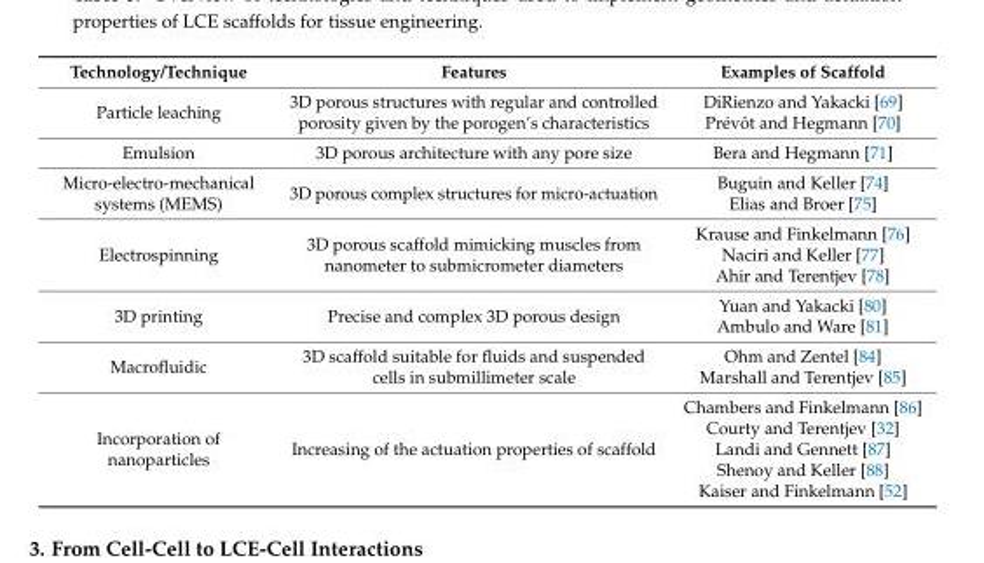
<table><thead><tr><td>Technology/Technique</td><td>Features</td><td>Examples of Scaffold</td></tr></thead><tbody><tr><td>Particle leaching</td><td>3D porous structures with regular and controlled porosity given by the porogen’s characteristics</td><td>DiRienzo and Yakacki [69] Prévôt and Hegmann [70]</td></tr><tr><td>Emulsion</td><td>3D porous architecture with any pore size</td><td>Bera and Hegmann [71]</td></tr><tr><td>Micro-electro-mechanical systems (MEMS)</td><td>3D porous complex structures for micro-actuation</td><td>Buguin and Keller [74] Elias and Broer [75]</td></tr><tr><td>Electrospinning</td><td>3D porous scaffold mimicking muscles from nanometer to submicrometer diameters</td><td>Krause and Finkelmann [76] Naciri and Keller [77] Ahir and Terentjev [78]</td></tr><tr><td>3D printing</td><td>Precise and complex 3D porous design</td><td>Yuan and Yakacki [80] Ambulo and Ware [81]</td></tr><tr><td>Macrofluidic</td><td>3D scaffold suitable for fluids and suspended cells in submillimeter scale</td><td>Ohm and Zentel [84] Marshall and Terentjev [85]</td></tr><tr><td>Incorporation of nanoparticles</td><td>Increasing of the actuation properties of scaffold</td><td>Chambers and Finkelmann [86] Courty and Terentjev [32] Landi and Gennett [87] Shenoy and Keller [88] Kaiser and Finkelmann [52]</td></tr></tbody></table>